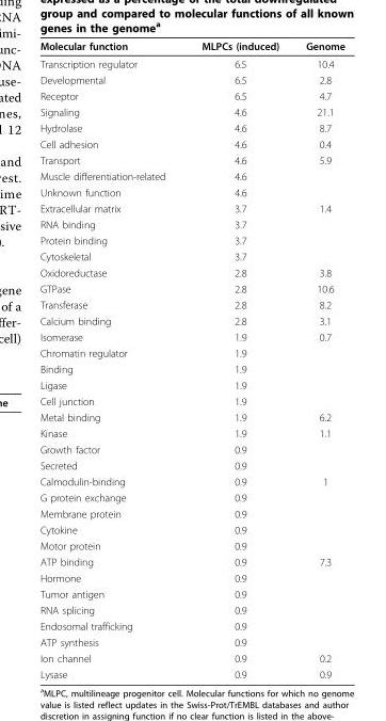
<table><thead><tr><td>Molecular function</td><td>MLPCs (induced)</td><td>Genome</td></tr></thead><tbody><tr><td>Transcription regulator</td><td>6.5</td><td>10.4</td></tr><tr><td>Developmental</td><td>6.5</td><td>2.8</td></tr><tr><td>Receptor</td><td>6.5</td><td>4.7</td></tr><tr><td>Signaling</td><td>4.6</td><td>21.1</td></tr><tr><td>Hydrolase</td><td>4.6</td><td>8.7</td></tr><tr><td>Cell adhesion</td><td>4.6</td><td>0.4</td></tr><tr><td>Transport</td><td>4.6</td><td>5.9</td></tr><tr><td>Muscle differentiation-related</td><td>4.6</td><td></td></tr><tr><td>Unknown function</td><td>4.6</td><td></td></tr><tr><td>Extracellular matrix</td><td>3.7</td><td>1.4</td></tr><tr><td>RNA binding</td><td>3.7</td><td></td></tr><tr><td>Protein binding</td><td>3.7</td><td></td></tr><tr><td>Cytoskeletal</td><td>3.7</td><td></td></tr><tr><td>Oxidoreductase</td><td>2.8</td><td>3.8</td></tr><tr><td>GTPase</td><td>2.8</td><td>10.6</td></tr><tr><td>Transferase</td><td>2.8</td><td>8.2</td></tr><tr><td>Calcium binding</td><td>2.8</td><td>3.1</td></tr><tr><td>Isomerase</td><td>1.9</td><td>0.7</td></tr><tr><td>Chromatin regulator</td><td>1.9</td><td></td></tr><tr><td>Binding</td><td>1.9</td><td></td></tr><tr><td>Ligase</td><td>1.9</td><td></td></tr><tr><td>Cell junction</td><td>1.9</td><td></td></tr><tr><td>Metal binding</td><td>1.9</td><td>6.2</td></tr><tr><td>Kinase</td><td>1.9</td><td>1.1</td></tr><tr><td>Growth factor</td><td>0.9</td><td></td></tr><tr><td>Secreted</td><td>0.9</td><td></td></tr><tr><td>Calmodulin-binding</td><td>0.9</td><td>1</td></tr><tr><td>G protein exchange</td><td>0.9</td><td></td></tr><tr><td>Membrane protein</td><td>0.9</td><td></td></tr><tr><td>Cytokine</td><td>0.9</td><td></td></tr><tr><td>Motor protein</td><td>0.9</td><td></td></tr><tr><td>ATP binding</td><td>0.9</td><td>7.3</td></tr><tr><td>Hormone</td><td>0.9</td><td></td></tr><tr><td>Tumor antigen</td><td>0.9</td><td></td></tr><tr><td>RNA splicing</td><td>0.9</td><td></td></tr><tr><td>Endosomal trafficking</td><td>0.9</td><td></td></tr><tr><td>ATP synthesis</td><td>0.9</td><td></td></tr><tr><td>Ion channel</td><td>0.9</td><td>0.2</td></tr><tr><td>Lysase</td><td>0.9</td><td>0.9</td></tr></tbody></table>